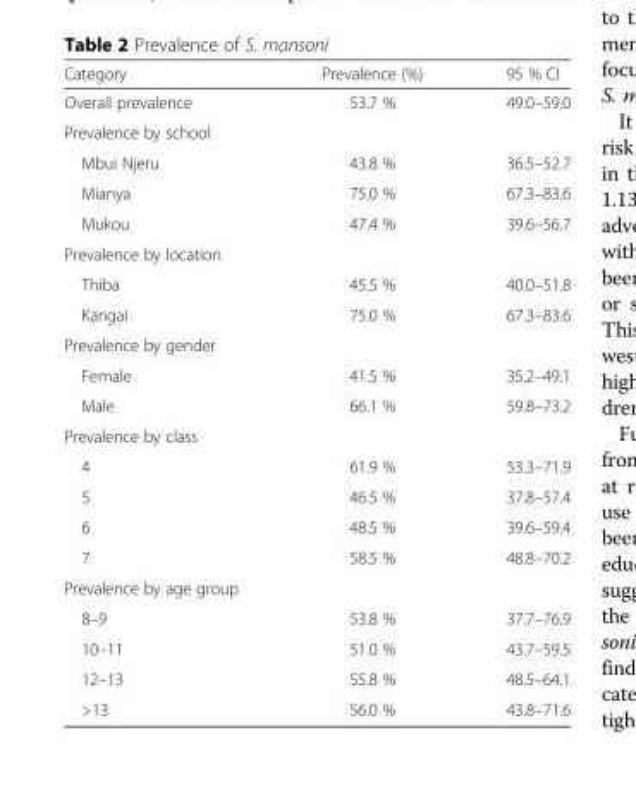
<table><thead><tr><td>Category</td><td>Prevalence (%)</td><td>95 % CI</td></tr></thead><tbody><tr><td>Overall prevalence</td><td>53.7 %</td><td>49.0–59.0</td></tr><tr><td colspan="3">Prevalence by school</td></tr><tr><td>Mbui Njeru</td><td>43.8 %</td><td>36.5–52.7</td></tr><tr><td>Mianya</td><td>75.0 %</td><td>67.3–83.6</td></tr><tr><td>Mukou</td><td>47.4 %</td><td>39.6–56.7</td></tr><tr><td colspan="3">Prevalence by location</td></tr><tr><td>Thiba</td><td>45.5 %</td><td>40.0–51.8</td></tr><tr><td>Kangai</td><td>75.0 %</td><td>67.3–83.6</td></tr><tr><td colspan="3">Prevalence by gender</td></tr><tr><td>Female</td><td>41.5 %</td><td>35.2–49.1</td></tr><tr><td>Male</td><td>66.1 %</td><td>59.8–73.2</td></tr><tr><td colspan="3">Prevalence by class</td></tr><tr><td>4</td><td>61.9 %</td><td>53.3–71.9</td></tr><tr><td>5</td><td>46.5 %</td><td>37.8–57.4</td></tr><tr><td>6</td><td>48.5 %</td><td>39.6–59.4</td></tr><tr><td>7</td><td>58.5 %</td><td>48.8–70.2</td></tr><tr><td colspan="3">Prevalence by age group</td></tr><tr><td>8–9</td><td>53.8 %</td><td>37.7–76.9</td></tr><tr><td>10–11</td><td>51.0 %</td><td>43.7–59.5</td></tr><tr><td>12–13</td><td>55.8 %</td><td>48.5–64.1</td></tr><tr><td>&gt;13</td><td>56.0 %</td><td>43.8–71.6</td></tr></tbody></table>